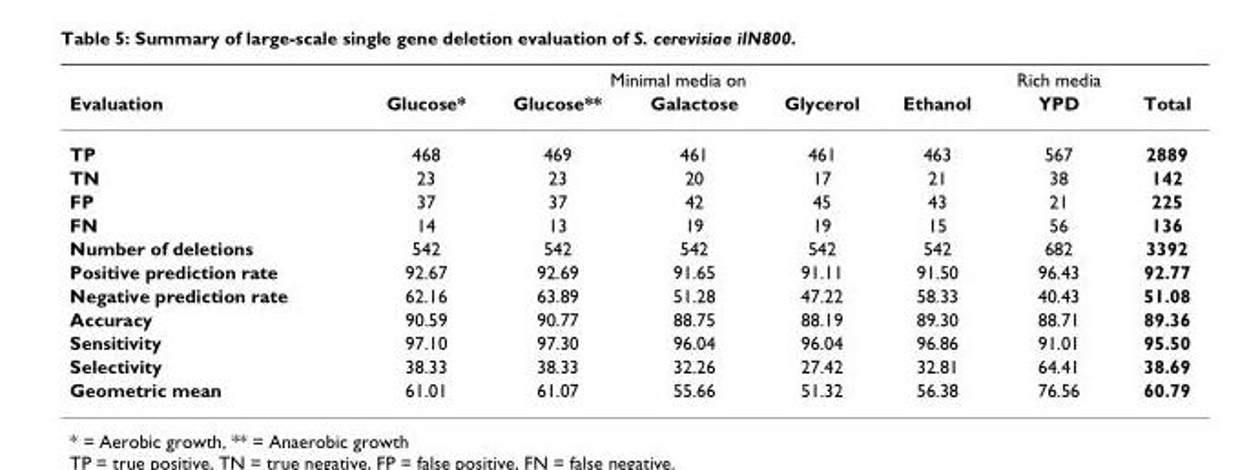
<table><thead><tr><td rowspan="2">Evaluation</td><td colspan="5">Minimal media on</td><td rowspan="2">Rich media YPD</td><td rowspan="2">Total</td></tr><tr><td>Glucose*</td><td>Glucose**</td><td>Galactose</td><td>Glycerol</td><td>Ethanol</td></tr></thead><tbody><tr><td>TP</td><td>468</td><td>469</td><td>461</td><td>461</td><td>463</td><td>567</td><td>2889</td></tr><tr><td>TN</td><td>23</td><td>23</td><td>20</td><td>17</td><td>21</td><td>38</td><td>142</td></tr><tr><td>FP</td><td>37</td><td>37</td><td>42</td><td>45</td><td>43</td><td>21</td><td>225</td></tr><tr><td>FN</td><td>14</td><td>13</td><td>19</td><td>19</td><td>15</td><td>56</td><td>136</td></tr><tr><td>Number of deletions</td><td>542</td><td>542</td><td>542</td><td>542</td><td>542</td><td>682</td><td>3392</td></tr><tr><td>Positive prediction rate</td><td>92.67</td><td>92.69</td><td>91.65</td><td>91.11</td><td>91.50</td><td>96.43</td><td>92.77</td></tr><tr><td>Negative prediction rate</td><td>62.16</td><td>63.89</td><td>51.28</td><td>47.22</td><td>58.33</td><td>40.43</td><td>51.08</td></tr><tr><td>Accuracy</td><td>90.59</td><td>90.77</td><td>88.75</td><td>88.19</td><td>89.30</td><td>88.71</td><td>89.36</td></tr><tr><td>Sensitivity</td><td>97.10</td><td>97.30</td><td>96.04</td><td>96.04</td><td>96.86</td><td>91.01</td><td>95.50</td></tr><tr><td>Selectivity</td><td>38.33</td><td>38.33</td><td>32.26</td><td>27.42</td><td>32.81</td><td>64.41</td><td>38.69</td></tr><tr><td>Geometric mean</td><td>61.01</td><td>61.07</td><td>55.66</td><td>51.32</td><td>56.38</td><td>76.56</td><td>60.79</td></tr></tbody></table>